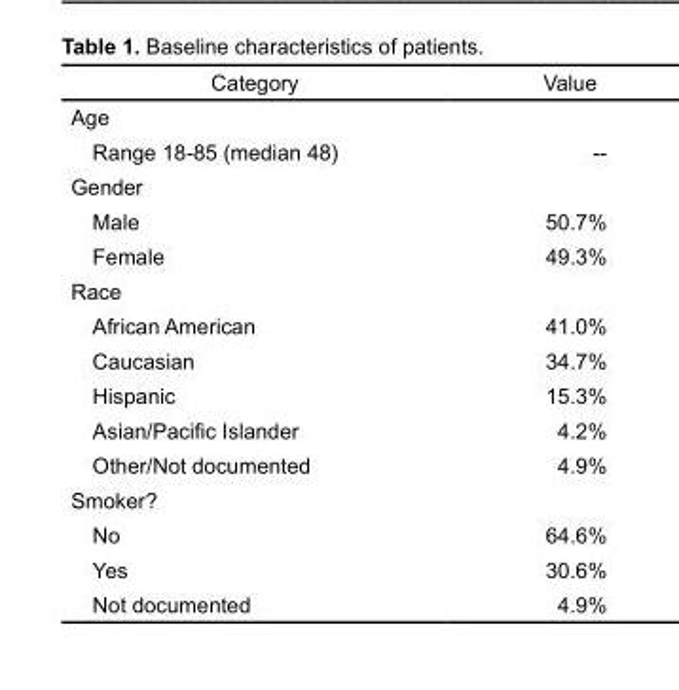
<table><thead><tr><td>Category</td><td>Value</td></tr></thead><tbody><tr><td colspan="2">Age</td></tr><tr><td>Range 18-85 (median 48)</td><td>--</td></tr><tr><td colspan="2">Gender</td></tr><tr><td>Male</td><td>50.7%</td></tr><tr><td>Female</td><td>49.3%</td></tr><tr><td colspan="2">Race</td></tr><tr><td>African American</td><td>41.0%</td></tr><tr><td>Caucasian</td><td>34.7%</td></tr><tr><td>Hispanic</td><td>15.3%</td></tr><tr><td>Asian/Pacific Islander</td><td>4.2%</td></tr><tr><td>Other/Not documented</td><td>4.9%</td></tr><tr><td colspan="2">Smoker?</td></tr><tr><td>No</td><td>64.6%</td></tr><tr><td>Yes</td><td>30.6%</td></tr><tr><td>Not documented</td><td>4.9%</td></tr></tbody></table>